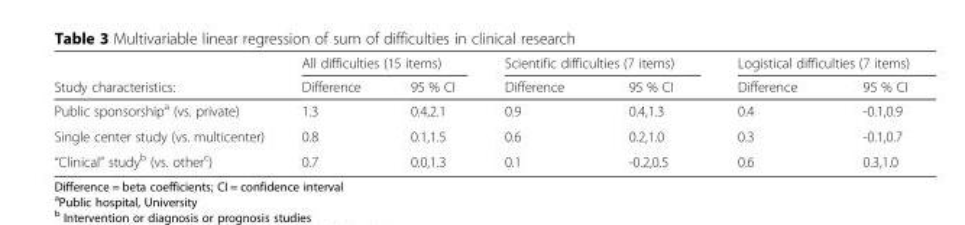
<table><thead><tr><td rowspan="2">Study characteristics:</td><td colspan="2">All difficulties (15 items)</td><td colspan="2">Scientific difficulties (7 items)</td><td colspan="2">Logistical difficulties (7 items)</td></tr><tr><td>Difference</td><td>95 % CI</td><td>Difference</td><td>95 % CI</td><td>Difference</td><td>95 % CI</td></tr></thead><tbody><tr><td>Public sponsorship<sup>a</sup> (vs. private)</td><td>1.3</td><td>0.4,2.1</td><td>0.9</td><td>0.4,1.3</td><td>0.4</td><td>-0.1,0.9</td></tr><tr><td>Single center study (vs. multicenter)</td><td>0.8</td><td>0.1,1.5</td><td>0.6</td><td>0.2,1.0</td><td>0.3</td><td>-0.1,0.7</td></tr><tr><td>“Clinical” study<sup>b</sup> (vs. other<sup>c</sup>)</td><td>0.7</td><td>0.0,1.3</td><td>0.1</td><td>-0.2,0.5</td><td>0.6</td><td>0.3,1.0</td></tr></tbody></table>